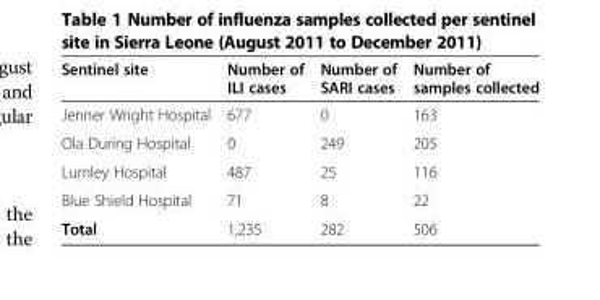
<table><thead><tr><td>Sentinel site</td><td>Number of ILI cases</td><td>Number of SARI cases</td><td>Number of samples collected</td></tr></thead><tbody><tr><td>Jenner Wright Hospital</td><td>677</td><td>0</td><td>163</td></tr><tr><td>Ola During Hospital</td><td>0</td><td>249</td><td>205</td></tr><tr><td>Lumley Hospital</td><td>487</td><td>25</td><td>116</td></tr><tr><td>Blue Shield Hospital</td><td>71</td><td>8</td><td>22</td></tr><tr><td>Total</td><td>1,235</td><td>282</td><td>506</td></tr></tbody></table>